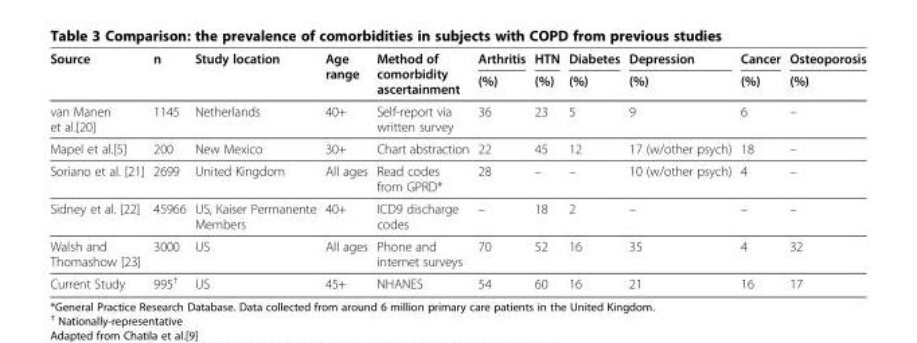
<table><thead><tr><td rowspan="2">Source</td><td rowspan="2">n</td><td rowspan="2">Study location</td><td rowspan="2">Age range</td><td rowspan="2">Method of comorbidity ascertainment</td><td rowspan="2">Arthritis (%)</td><td rowspan="2">HTN (%)</td><td rowspan="2">Diabetes (%)</td><td rowspan="2">Depression (%)</td><td rowspan="2">Cancer (%)</td><td rowspan="2">Osteoporosis (%)</td></tr><tr></tr></thead><tbody><tr><td>van Manen et al.[20]</td><td>1145</td><td>Netherlands</td><td>40+</td><td>Self-report via written survey</td><td>36</td><td>23</td><td>5</td><td>9</td><td>6</td><td>–</td></tr><tr><td>Mapel et al.[5]</td><td>200</td><td>New Mexico</td><td>30+</td><td>Chart abstraction</td><td>22</td><td>45</td><td>12</td><td>17 (w/other psych)</td><td>18</td><td>–</td></tr><tr><td>Soriano et al. [21]</td><td>2699</td><td>United Kingdom</td><td>All ages</td><td>Read codes from GPRD*</td><td>28</td><td>–</td><td>–</td><td>10 (w/other psych)</td><td>4</td><td>–</td></tr><tr><td>Sidney et al. [22]</td><td>45966</td><td>US, Kaiser Permanente Members</td><td>40+</td><td>ICD9 discharge codes</td><td>–</td><td>18</td><td>2</td><td>–</td><td>–</td><td>–</td></tr><tr><td>Walsh and Thomashow [23]</td><td>3000</td><td>US</td><td>All ages</td><td>Phone and internet surveys</td><td>70</td><td>52</td><td>16</td><td>35</td><td>4</td><td>32</td></tr><tr><td>Current Study</td><td>995<sup>†</sup></td><td>US</td><td>45+</td><td>NHANES</td><td>54</td><td>60</td><td>16</td><td>21</td><td>16</td><td>17</td></tr></tbody></table>